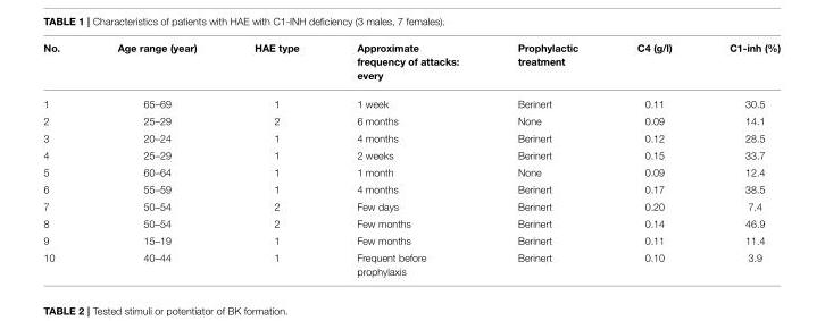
<table><thead><tr><td>No.</td><td>Age range (year)</td><td>HAE type</td><td>Approximate frequency of attacks: every</td><td>Prophylactic treatment</td><td>C4 (g/l)</td><td>C1-inh (%)</td></tr></thead><tbody><tr><td>1</td><td>65–69</td><td>1</td><td>1 week</td><td>Berinert</td><td>0.11</td><td>30.5</td></tr><tr><td>2</td><td>25–29</td><td>2</td><td>6 months</td><td>None</td><td>0.09</td><td>14.1</td></tr><tr><td>3</td><td>20–24</td><td>1</td><td>4 months</td><td>Berinert</td><td>0.12</td><td>28.5</td></tr><tr><td>4</td><td>25–29</td><td>1</td><td>2 weeks</td><td>Berinert</td><td>0.15</td><td>33.7</td></tr><tr><td>5</td><td>60–64</td><td>1</td><td>1 month</td><td>None</td><td>0.09</td><td>12.4</td></tr><tr><td>6</td><td>55–59</td><td>1</td><td>4 months</td><td>Berinert</td><td>0.17</td><td>38.5</td></tr><tr><td>7</td><td>50–54</td><td>2</td><td>Few days</td><td>Berinert</td><td>0.20</td><td>7.4</td></tr><tr><td>8</td><td>50–54</td><td>2</td><td>Few months</td><td>Berinert</td><td>0.14</td><td>46.9</td></tr><tr><td>9</td><td>15–19</td><td>1</td><td>Few months</td><td>Berinert</td><td>0.11</td><td>11.4</td></tr><tr><td>10</td><td>40–44</td><td>1</td><td>Frequent before prophylaxis</td><td>Berinert</td><td>0.10</td><td>3.9</td></tr></tbody></table>